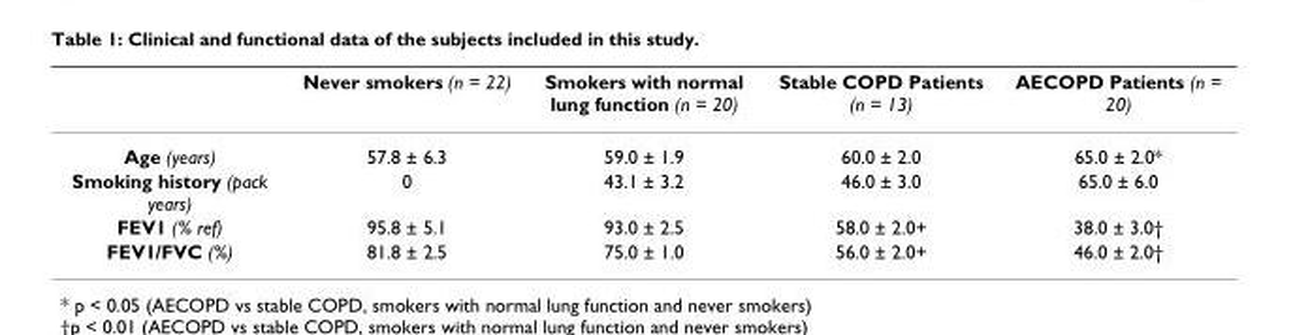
<table><thead><tr><td></td><td>Never smokers (n = 22)</td><td>Smokers with normal lung function (n = 20)</td><td>Stable COPD Patients (n = 13)</td><td>AECOPD Patients (n = 20)</td></tr></thead><tbody><tr><td>Age (years)</td><td>57.8 ± 6.3</td><td>59.0 ± 1.9</td><td>60.0 ± 2.0</td><td>65.0 ± 2.0*</td></tr><tr><td>Smoking history (pack years)</td><td>0</td><td>43.1 ± 3.2</td><td>46.0 ± 3.0</td><td>65.0 ± 6.0</td></tr><tr><td>FEV1 (% ref)</td><td>95.8 ± 5.1</td><td>93.0 ± 2.5</td><td>58.0 ± 2.0+</td><td>38.0 ± 3.0†</td></tr><tr><td>FEV1/FVC (%)</td><td>81.8 ± 2.5</td><td>75.0 ± 1.0</td><td>56.0 ± 2.0+</td><td>46.0 ± 2.0†</td></tr></tbody></table>